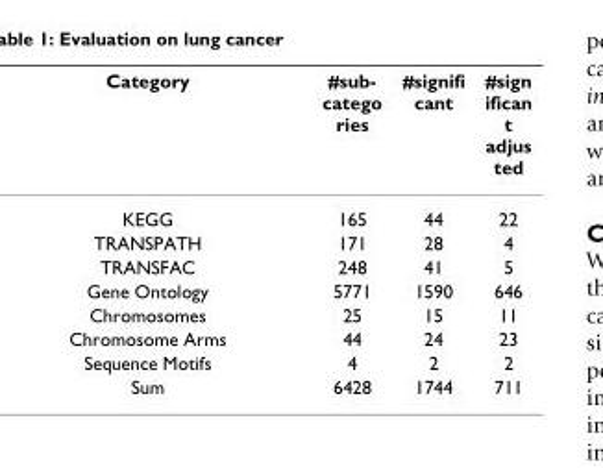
<table><thead><tr><td>Category</td><td>#sub- catego ries</td><td>#signifi cant</td><td>#sign ifican t adjus ted</td></tr></thead><tbody><tr><td>KEGG</td><td>165</td><td>44</td><td>22</td></tr><tr><td>TRANSPATH</td><td>171</td><td>28</td><td>4</td></tr><tr><td>TRANSFAC</td><td>248</td><td>41</td><td>5</td></tr><tr><td>Gene Ontology</td><td>5771</td><td>1590</td><td>646</td></tr><tr><td>Chromosomes</td><td>25</td><td>15</td><td>11</td></tr><tr><td>Chromosome Arms</td><td>44</td><td>24</td><td>23</td></tr><tr><td>Sequence Motifs</td><td>4</td><td>2</td><td>2</td></tr><tr><td>Sum</td><td>6428</td><td>1744</td><td>711</td></tr></tbody></table>